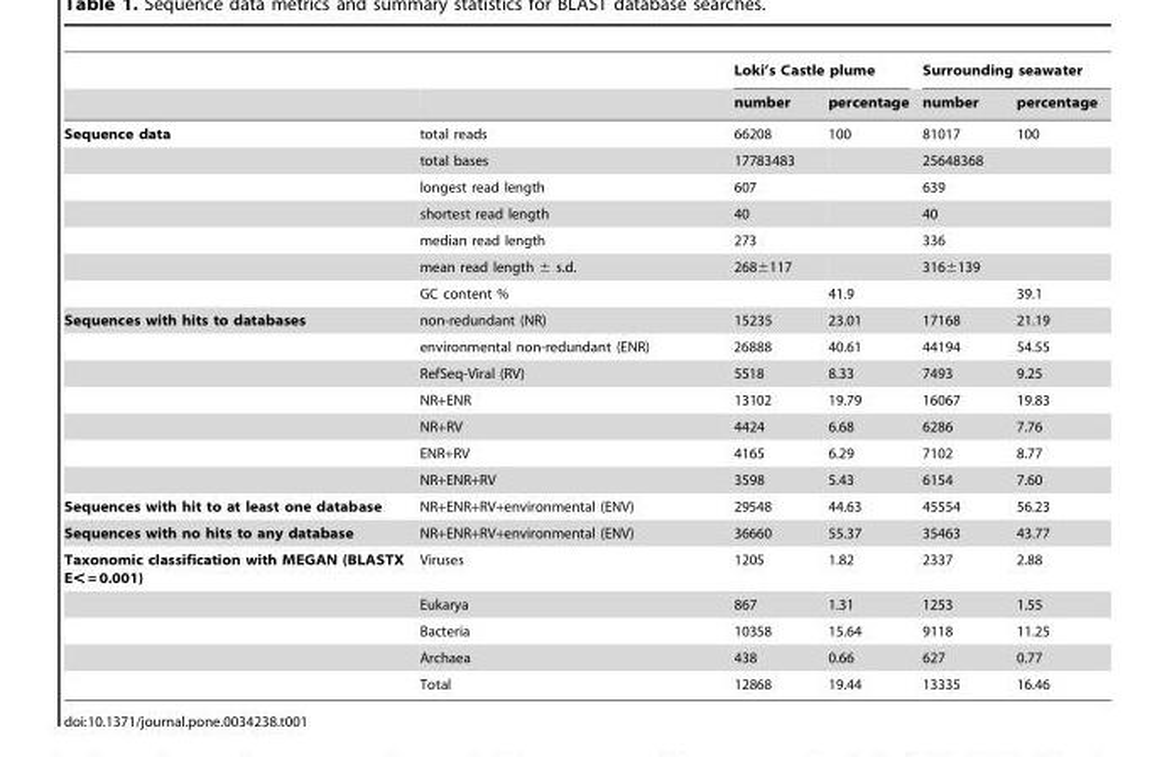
<table><thead><tr><td rowspan="2"></td><td rowspan="2"></td><td colspan="2">Loki’s Castle plume</td><td colspan="2">Surrounding seawater</td></tr><tr><td>number</td><td>percentage</td><td>number</td><td>percentage</td></tr></thead><tbody><tr><td rowspan="7">Sequence data</td><td>total reads</td><td>66208</td><td>100</td><td>81017</td><td>100</td></tr><tr><td>total bases</td><td>17783483</td><td></td><td>25648368</td><td></td></tr><tr><td>longest read length</td><td>607</td><td></td><td>639</td><td></td></tr><tr><td>shortest read length</td><td>40</td><td></td><td>40</td><td></td></tr><tr><td>median read length</td><td>273</td><td></td><td>336</td><td></td></tr><tr><td>mean read length ± s.d.</td><td>268±117</td><td></td><td>316±139</td><td></td></tr><tr><td>GC content %</td><td></td><td>41.9</td><td></td><td>39.1</td></tr><tr><td rowspan="7">Sequences with hits to databases</td><td>non-redundant (NR)</td><td>15235</td><td>23.01</td><td>17168</td><td>21.19</td></tr><tr><td>environmental non-redundant (ENR)</td><td>26888</td><td>40.61</td><td>44194</td><td>54.55</td></tr><tr><td>RefSeq-Viral (RV)</td><td>5518</td><td>8.33</td><td>7493</td><td>9.25</td></tr><tr><td>NR+ENR</td><td>13102</td><td>19.79</td><td>16067</td><td>19.83</td></tr><tr><td>NR+RV</td><td>4424</td><td>6.68</td><td>6286</td><td>7.76</td></tr><tr><td>ENR+RV</td><td>4165</td><td>6.29</td><td>7102</td><td>8.77</td></tr><tr><td>NR+ENR+RV</td><td>3598</td><td>5.43</td><td>6154</td><td>7.60</td></tr><tr><td>Sequences with hit to at least one database</td><td>NR+ENR+RV+environmental (ENV)</td><td>29548</td><td>44.63</td><td>45554</td><td>56.23</td></tr><tr><td>Sequences with no hits to any database</td><td>NR+ENR+RV+environmental (ENV)</td><td>36660</td><td>55.37</td><td>35463</td><td>43.77</td></tr><tr><td rowspan="5">Taxonomic classification with MEGAN (BLASTX E&lt; = 0.001)</td><td>Viruses</td><td>1205</td><td>1.82</td><td>2337</td><td>2.88</td></tr><tr><td>Eukarya</td><td>867</td><td>1.31</td><td>1253</td><td>1.55</td></tr><tr><td>Bacteria</td><td>10358</td><td>15.64</td><td>9118</td><td>11.25</td></tr><tr><td>Archaea</td><td>438</td><td>0.66</td><td>627</td><td>0.77</td></tr><tr><td>Total</td><td>12868</td><td>19.44</td><td>13335</td><td>16.46</td></tr></tbody></table>